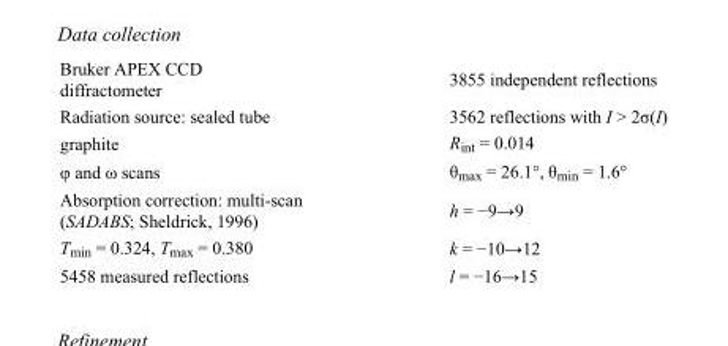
<table><tbody><tr><td>Bruker APEX CCD diffractometer</td><td>3855 independent reflections</td></tr><tr><td>Radiation source: sealed tube</td><td>3562 reflections with I &gt; 2σ(I)</td></tr><tr><td>graphite</td><td>R<sub>int</sub> = 0.014</td></tr><tr><td>φ and ω scans</td><td>θ<sub>max</sub> = 26.1°, θ<sub>min</sub> = 1.6°</td></tr><tr><td>Absorption correction: multi-scan (SADABS; Sheldrick, 1996)</td><td>h = −9→9</td></tr><tr><td>T<sub>min</sub> = 0.324, T<sub>max</sub> = 0.380</td><td>k = −10→12</td></tr><tr><td>5458 measured reflections</td><td>l = −16→15</td></tr></tbody></table>